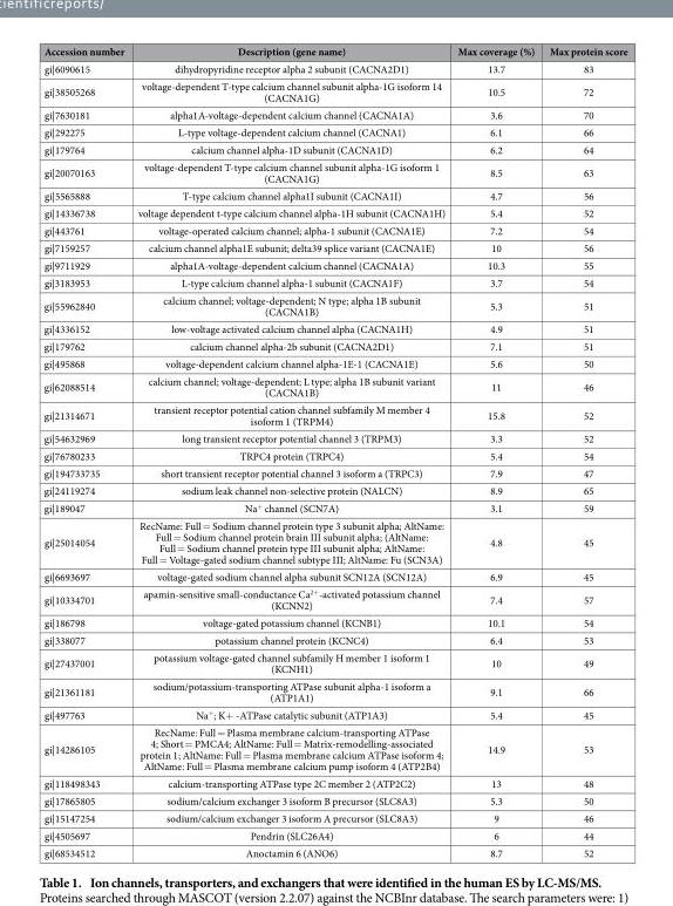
<table><tbody><tr><td>Accession number</td><td>Description (gene name)</td><td>Max coverage (%)</td><td>Max protein score</td></tr><tr><td>gi|6090615</td><td>dihydropyridine receptor alpha 2 subunit (CACNA2D1)</td><td>13.7</td><td>83</td></tr><tr><td>gi|38505268</td><td>voltage-dependent T-type calcium channel subunit alpha-1G isoform 14 (CACNA1G)</td><td>10.5</td><td>72</td></tr><tr><td>gi|7630181</td><td>alpha1A-voltage-dependent calcium channel (CACNA1A)</td><td>3.6</td><td>70</td></tr><tr><td>gi|292275</td><td>L-type voltage-dependent calcium channel (CACNA1)</td><td>6.1</td><td>66</td></tr><tr><td>gi|179764</td><td>calcium channel alpha-1D subunit (CACNA1D)</td><td>6.2</td><td>64</td></tr><tr><td>gi|20070163</td><td>voltage-dependent T-type calcium channel subunit alpha-1G isoform 1 (CACNA1G)</td><td>8.5</td><td>63</td></tr><tr><td>gi|5565888</td><td>T-type calcium channel alpha1I subunit (CACNA1I)</td><td>4.7</td><td>56</td></tr><tr><td>gi|14336738</td><td>voltage dependent t-type calcium channel alpha-1H subunit (CACNA1H)</td><td>5.4</td><td>52</td></tr><tr><td>gi|443761</td><td>voltage-operated calcium channel; alpha-1 subunit (CACNA1E)</td><td>7.2</td><td>54</td></tr><tr><td>gi|7159257</td><td>calcium channel alpha1E subunit; delta39 splice variant (CACNA1E)</td><td>10</td><td>56</td></tr><tr><td>gi|9711929</td><td>alpha1A-voltage-dependent calcium channel (CACNA1A)</td><td>10.3</td><td>55</td></tr><tr><td>gi|3183953</td><td>L-type calcium channel alpha-1 subunit (CACNA1F)</td><td>3.7</td><td>54</td></tr><tr><td>gi|55962840</td><td>calcium channel; voltage-dependent; N type; alpha 1B subunit (CACNA1B)</td><td>5.3</td><td>51</td></tr><tr><td>gi|4336152</td><td>low-voltage activated calcium channel alpha (CACNA1H)</td><td>4.9</td><td>51</td></tr><tr><td>gi|179762</td><td>calcium channel alpha-2b subunit (CACNA2D1)</td><td>7.1</td><td>51</td></tr><tr><td>gi|495868</td><td>voltage-dependent calcium channel alpha-1E-1 (CACNA1E)</td><td>5.6</td><td>50</td></tr><tr><td>gi|62088514</td><td>calcium channel; voltage-dependent; L type; alpha 1B subunit variant (CACNA1B)</td><td>11</td><td>46</td></tr><tr><td>gi|21314671</td><td>transient receptor potential cation channel subfamily M member 4 isoform 1 (TRPM4)</td><td>15.8</td><td>52</td></tr><tr><td>gi|54632969</td><td>long transient receptor potential channel 3 (TRPM3)</td><td>3.3</td><td>52</td></tr><tr><td>gi|76780233</td><td>TRPC4 protein (TRPC4)</td><td>5.4</td><td>54</td></tr><tr><td>gi|194733735</td><td>short transient receptor potential channel 3 isoform a (TRPC3)</td><td>7.9</td><td>47</td></tr><tr><td>gi|24119274</td><td>sodium leak channel non-selective protein (NALCN)</td><td>8.9</td><td>65</td></tr><tr><td>gi|189047</td><td>Na<sup>+</sup> channel (SCN7A)</td><td>3.1</td><td>59</td></tr><tr><td>gi|25014054</td><td>RecName: Full = Sodium channel protein type 3 subunit alpha; AltName: Full = Sodium channel protein brain III subunit alpha; (AltName: Full = Sodium channel protein type III subunit alpha; AltName: Full = Voltage-gated sodium channel subtype III; AltName: Fu (SCN3A)</td><td>4.8</td><td>45</td></tr><tr><td>gi|6693697</td><td>voltage-gated sodium channel alpha subunit SCN12A (SCN12A)</td><td>6.9</td><td>45</td></tr><tr><td>gi|10334701</td><td>apamin-sensitive small-conductance Ca<sup>2+</sup>-activated potassium channel (KCNN2)</td><td>7.4</td><td>57</td></tr><tr><td>gi|186798</td><td>voltage-gated potassium channel (KCNB1)</td><td>10.1</td><td>54</td></tr><tr><td>gi|338077</td><td>potassium channel protein (KCNC4)</td><td>6.4</td><td>53</td></tr><tr><td>gi|27437001</td><td>potassium voltage-gated channel subfamily H member 1 isoform 1 (KCNH1)</td><td>10</td><td>49</td></tr><tr><td>gi|21361181</td><td>sodium/potassium-transporting ATPase subunit alpha-1 isoform a (ATP1A1)</td><td>9.1</td><td>66</td></tr><tr><td>gi|497763</td><td>Na<sup>+</sup>; K+ -ATPase catalytic subunit (ATP1A3)</td><td>5.4</td><td>45</td></tr><tr><td>gi|14286105</td><td>RecName: Full = Plasma membrane calcium-transporting ATPase 4; Short = PMCA4; AltName: Full = Matrix-remodelling-associated protein 1; AltName: Full = Plasma membrane calcium ATPase isoform 4; AltName: Full = Plasma membrane calcium pump isoform 4 (ATP2B4)</td><td>14.9</td><td>53</td></tr><tr><td>gi|118498343</td><td>calcium-transporting ATPase type 2C member 2 (ATP2C2)</td><td>13</td><td>48</td></tr><tr><td>gi|17865805</td><td>sodium/calcium exchanger 3 isoform B precursor (SLC8A3)</td><td>5.3</td><td>50</td></tr><tr><td>gi|15147254</td><td>sodium/calcium exchanger 3 isoform A precursor (SLC8A3)</td><td>9</td><td>46</td></tr><tr><td>gi|4505697</td><td>Pendrin (SLC26A4)</td><td>6</td><td>44</td></tr><tr><td>gi|68534512</td><td>Anoctamin 6 (ANO6)</td><td>8.7</td><td>52</td></tr></tbody></table>